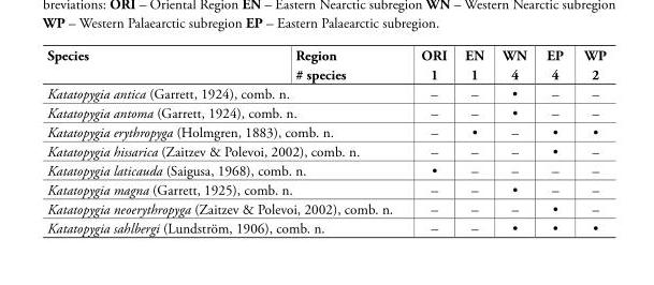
<table><thead><tr><td rowspan="2">Species</td><td rowspan="2">Region # species</td><td rowspan="2">ORI 1</td><td rowspan="2">EN 1</td><td rowspan="2">WN 4</td><td rowspan="2">EP 4</td><td rowspan="2">WP 2</td></tr><tr></tr></thead><tbody><tr><td colspan="2">Katatopygia antica (Garrett, 1924), comb. n.</td><td>–</td><td>–</td><td>•</td><td>–</td><td>–</td></tr><tr><td colspan="2">Katatopygia antoma (Garrett, 1924), comb. n.</td><td>–</td><td>–</td><td>•</td><td>–</td><td>–</td></tr><tr><td colspan="2">Katatopygia erythropyga (Holmgren, 1883), comb. n.</td><td>–</td><td>•</td><td>–</td><td>•</td><td>•</td></tr><tr><td colspan="2">Katatopygia hissarica (Zaitzev &amp; Polevoi, 2002), comb. n.</td><td>–</td><td>–</td><td>–</td><td>•</td><td>–</td></tr><tr><td colspan="2">Katatopygia laticauda (Saigusa, 1968), comb. n.</td><td>•</td><td>–</td><td>–</td><td>–</td><td>–</td></tr><tr><td colspan="2">Katatopygia magna (Garrett, 1925), comb. n.</td><td>–</td><td>–</td><td>•</td><td>–</td><td>–</td></tr><tr><td colspan="2">Katatopygia neoerythropyga (Zaitzev &amp; Polevoi, 2002), comb. n.</td><td>–</td><td>–</td><td>–</td><td>•</td><td>–</td></tr><tr><td colspan="2">Katatopygia sahlbergi (Lundström, 1906), comb. n.</td><td>–</td><td>–</td><td>•</td><td>•</td><td>•</td></tr></tbody></table>